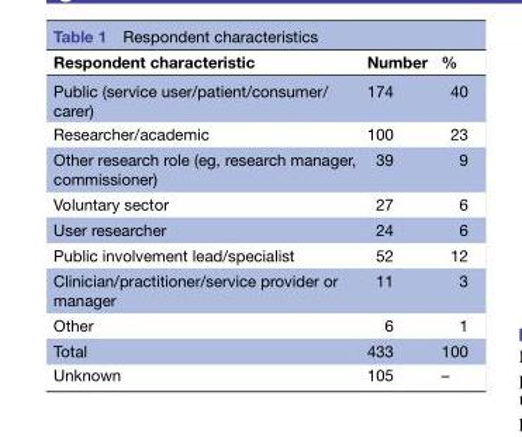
<table><thead><tr><td>Respondent characteristic</td><td>Number</td><td>%</td></tr></thead><tbody><tr><td>Public (service user/patient/consumer/ carer)</td><td>174</td><td>40</td></tr><tr><td>Researcher/academic</td><td>100</td><td>23</td></tr><tr><td>Other research role (eg, research manager, commissioner)</td><td>39</td><td>9</td></tr><tr><td>Voluntary sector</td><td>27</td><td>6</td></tr><tr><td>User researcher</td><td>24</td><td>6</td></tr><tr><td>Public involvement lead/specialist</td><td>52</td><td>12</td></tr><tr><td>Clinician/practitioner/service provider or manager</td><td>11</td><td>3</td></tr><tr><td>Other</td><td>6</td><td>1</td></tr><tr><td>Total</td><td>433</td><td>100</td></tr><tr><td>Unknown</td><td>105</td><td>–</td></tr></tbody></table>